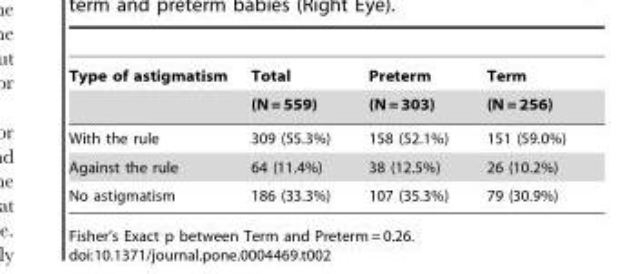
<table><thead><tr><td rowspan="2">Type of astigmatism</td><td rowspan="2">Total (N = 559)</td><td rowspan="2">Preterm (N = 303)</td><td rowspan="2">Term (N = 256)</td></tr><tr></tr></thead><tbody><tr><td>With the rule</td><td>309 (55.3%)</td><td>158 (52.1%)</td><td>151 (59.0%)</td></tr><tr><td>Against the rule</td><td>64 (11.4%)</td><td>38 (12.5%)</td><td>26 (10.2%)</td></tr><tr><td>No astigmatism</td><td>186 (33.3%)</td><td>107 (35.3%)</td><td>79 (30.9%)</td></tr></tbody></table>